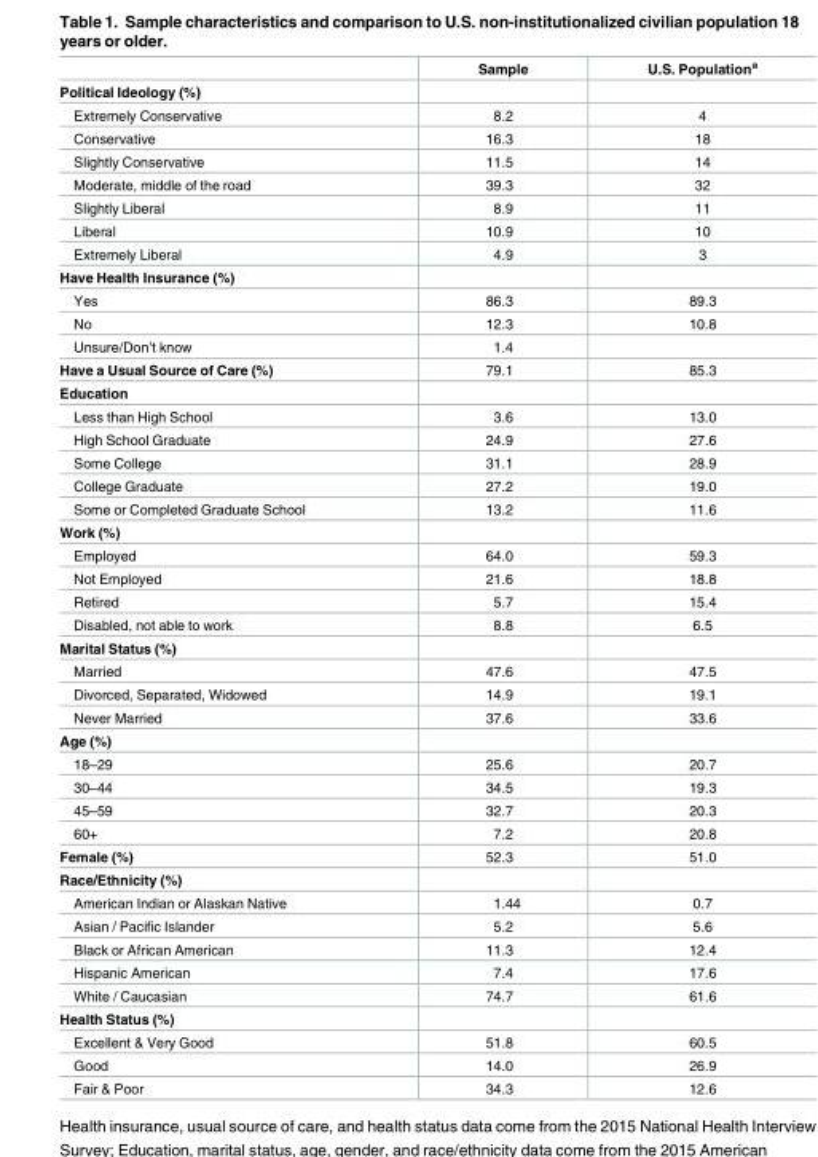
<table><thead><tr><td></td><td>Sample</td><td>U.S. Population<sup>a</sup></td></tr></thead><tbody><tr><td colspan="3">Political Ideology (%)</td></tr><tr><td>Extremely Conservative</td><td>8.2</td><td>4</td></tr><tr><td>Conservative</td><td>16.3</td><td>18</td></tr><tr><td>Slightly Conservative</td><td>11.5</td><td>14</td></tr><tr><td>Moderate, middle of the road</td><td>39.3</td><td>32</td></tr><tr><td>Slightly Liberal</td><td>8.9</td><td>11</td></tr><tr><td>Liberal</td><td>10.9</td><td>10</td></tr><tr><td>Extremely Liberal</td><td>4.9</td><td>3</td></tr><tr><td colspan="3">Have Health Insurance (%)</td></tr><tr><td>Yes</td><td>86.3</td><td>89.3</td></tr><tr><td>No</td><td>12.3</td><td>10.8</td></tr><tr><td>Unsure/Don’t know</td><td>1.4</td><td></td></tr><tr><td>Have a Usual Source of Care (%)</td><td>79.1</td><td>85.3</td></tr><tr><td colspan="3">Education</td></tr><tr><td>Less than High School</td><td>3.6</td><td>13.0</td></tr><tr><td>High School Graduate</td><td>24.9</td><td>27.6</td></tr><tr><td>Some College</td><td>31.1</td><td>28.9</td></tr><tr><td>College Graduate</td><td>27.2</td><td>19.0</td></tr><tr><td>Some or Completed Graduate School</td><td>13.2</td><td>11.6</td></tr><tr><td colspan="3">Work (%)</td></tr><tr><td>Employed</td><td>64.0</td><td>59.3</td></tr><tr><td>Not Employed</td><td>21.6</td><td>18.8</td></tr><tr><td>Retired</td><td>5.7</td><td>15.4</td></tr><tr><td>Disabled, not able to work</td><td>8.8</td><td>6.5</td></tr><tr><td colspan="3">Marital Status (%)</td></tr><tr><td>Married</td><td>47.6</td><td>47.5</td></tr><tr><td>Divorced, Separated, Widowed</td><td>14.9</td><td>19.1</td></tr><tr><td>Never Married</td><td>37.6</td><td>33.6</td></tr><tr><td colspan="3">Age (%)</td></tr><tr><td>18–29</td><td>25.6</td><td>20.7</td></tr><tr><td>30–44</td><td>34.5</td><td>19.3</td></tr><tr><td>45–59</td><td>32.7</td><td>20.3</td></tr><tr><td>60+</td><td>7.2</td><td>20.8</td></tr><tr><td>Female (%)</td><td>52.3</td><td>51.0</td></tr><tr><td colspan="3">Race/Ethnicity (%)</td></tr><tr><td>American Indian or Alaskan Native</td><td>1.44</td><td>0.7</td></tr><tr><td>Asian / Pacific Islander</td><td>5.2</td><td>5.6</td></tr><tr><td>Black or African American</td><td>11.3</td><td>12.4</td></tr><tr><td>Hispanic American</td><td>7.4</td><td>17.6</td></tr><tr><td>White / Caucasian</td><td>74.7</td><td>61.6</td></tr><tr><td colspan="3">Health Status (%)</td></tr><tr><td>Excellent &amp; Very Good</td><td>51.8</td><td>60.5</td></tr><tr><td>Good</td><td>14.0</td><td>26.9</td></tr><tr><td>Fair &amp; Poor</td><td>34.3</td><td>12.6</td></tr></tbody></table>